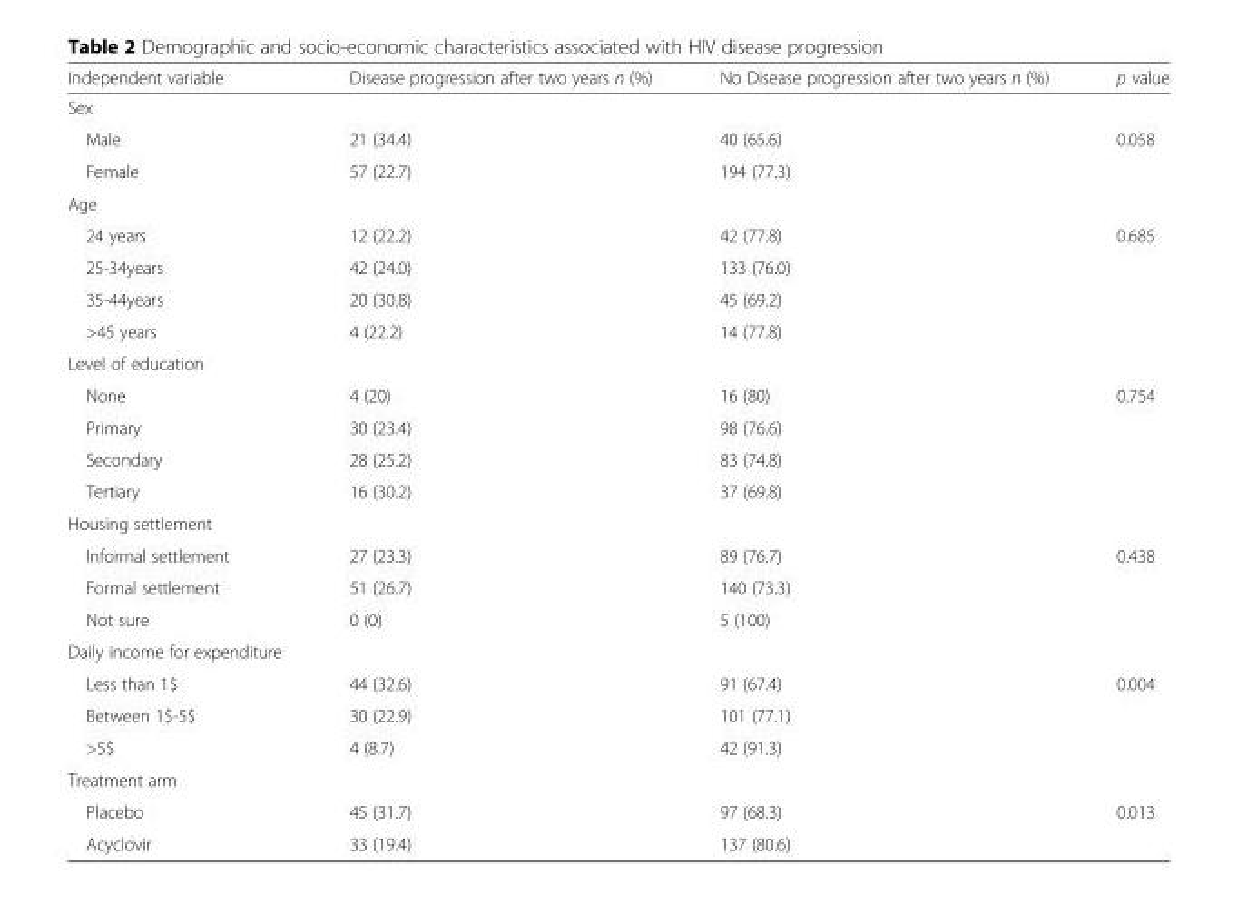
<table><thead><tr><td>Independent variable</td><td>Disease progression after two years n (%)</td><td>No Disease progression after two years n (%)</td><td>p value</td></tr></thead><tbody><tr><td colspan="4">Sex</td></tr><tr><td>Male</td><td>21 (34.4)</td><td>40 (65.6)</td><td>0.058</td></tr><tr><td>Female</td><td>57 (22.7)</td><td>194 (77.3)</td><td></td></tr><tr><td colspan="4">Age</td></tr><tr><td>24 years</td><td>12 (22.2)</td><td>42 (77.8)</td><td>0.685</td></tr><tr><td>25-34years</td><td>42 (24.0)</td><td>133 (76.0)</td><td></td></tr><tr><td>35-44years</td><td>20 (30.8)</td><td>45 (69.2)</td><td></td></tr><tr><td>&gt;45 years</td><td>4 (22.2)</td><td>14 (77.8)</td><td></td></tr><tr><td colspan="4">Level of education</td></tr><tr><td>None</td><td>4 (20)</td><td>16 (80)</td><td>0.754</td></tr><tr><td>Primary</td><td>30 (23.4)</td><td>98 (76.6)</td><td></td></tr><tr><td>Secondary</td><td>28 (25.2)</td><td>83 (74.8)</td><td></td></tr><tr><td>Tertiary</td><td>16 (30.2)</td><td>37 (69.8)</td><td></td></tr><tr><td colspan="4">Housing settlement</td></tr><tr><td>Informal settlement</td><td>27 (23.3)</td><td>89 (76.7)</td><td>0.438</td></tr><tr><td>Formal settlement</td><td>51 (26.7)</td><td>140 (73.3)</td><td></td></tr><tr><td>Not sure</td><td>0 (0)</td><td>5 (100)</td><td></td></tr><tr><td colspan="4">Daily income for expenditure</td></tr><tr><td>Less than 1$</td><td>44 (32.6)</td><td>91 (67.4)</td><td>0.004</td></tr><tr><td>Between 1$-5$</td><td>30 (22.9)</td><td>101 (77.1)</td><td></td></tr><tr><td>&gt;5$</td><td>4 (8.7)</td><td>42 (91.3)</td><td></td></tr><tr><td colspan="4">Treatment arm</td></tr><tr><td>Placebo</td><td>45 (31.7)</td><td>97 (68.3)</td><td>0.013</td></tr><tr><td>Acyclovir</td><td>33 (19.4)</td><td>137 (80.6)</td><td></td></tr></tbody></table>